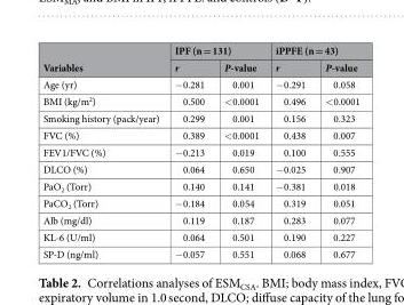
<table><thead><tr><td rowspan="2">Variables</td><td colspan="2">IPF (n = 131)</td><td colspan="2">iPPFE (n = 43)</td></tr><tr><td>r</td><td>P-value</td><td>r</td><td>P-value</td></tr></thead><tbody><tr><td>Age (yr)</td><td>−0.281</td><td>0.001</td><td>−0.291</td><td>0.058</td></tr><tr><td>BMI (kg/m<sup>2</sup>)</td><td>0.500</td><td>&lt;0.0001</td><td>0.496</td><td>&lt;0.0001</td></tr><tr><td>Smoking history (pack/year)</td><td>0.299</td><td>0.001</td><td>0.156</td><td>0.323</td></tr><tr><td>FVC (%)</td><td>0.389</td><td>&lt;0.0001</td><td>0.438</td><td>0.007</td></tr><tr><td>FEV1/FVC (%)</td><td>−0.213</td><td>0.019</td><td>0.100</td><td>0.555</td></tr><tr><td>DLCO (%)</td><td>0.064</td><td>0.650</td><td>−0.025</td><td>0.907</td></tr><tr><td>PaO<sub>2</sub> (Torr)</td><td>0.140</td><td>0.141</td><td>−0.381</td><td>0.018</td></tr><tr><td>PaCO<sub>2</sub> (Torr)</td><td>−0.184</td><td>0.054</td><td>0.319</td><td>0.051</td></tr><tr><td>Alb (mg/dl)</td><td>0.119</td><td>0.187</td><td>0.283</td><td>0.077</td></tr><tr><td>KL-6 (U/ml)</td><td>0.064</td><td>0.501</td><td>0.190</td><td>0.227</td></tr><tr><td>SP-D (ng/ml)</td><td>−0.057</td><td>0.551</td><td>0.068</td><td>0.677</td></tr></tbody></table>